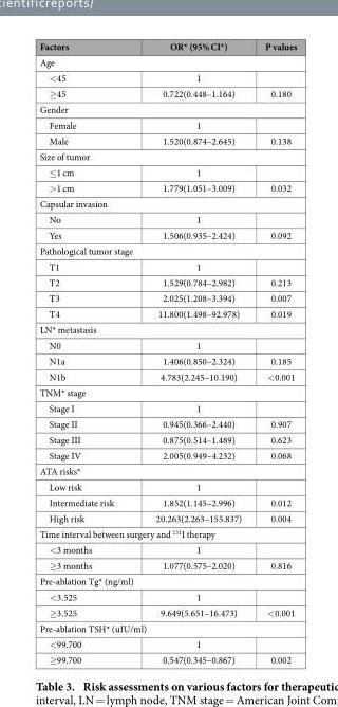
<table><thead><tr><td>Factors</td><td>OR* (95% CI*)</td><td>P values</td></tr></thead><tbody><tr><td colspan="3">Age</td></tr><tr><td>&lt; 45</td><td>1</td><td></td></tr><tr><td>≥ 45</td><td>0.722(0.448–1.164)</td><td>0.180</td></tr><tr><td colspan="3">Gender</td></tr><tr><td>Female</td><td>1</td><td></td></tr><tr><td>Male</td><td>1.520(0.874–2.645)</td><td>0.138</td></tr><tr><td colspan="3">Size of tumor</td></tr><tr><td>≤ 1 cm</td><td>1</td><td></td></tr><tr><td>&gt; 1 cm</td><td>1.779(1.051–3.009)</td><td>0.032</td></tr><tr><td colspan="3">Capsular invasion</td></tr><tr><td>No</td><td>1</td><td></td></tr><tr><td>Yes</td><td>1.506(0.935–2.424)</td><td>0.092</td></tr><tr><td colspan="3">Pathological tumor stage</td></tr><tr><td>T1</td><td>1</td><td></td></tr><tr><td>T2</td><td>1.529(0.784–2.982)</td><td>0.213</td></tr><tr><td>T3</td><td>2.025(1.208–3.394)</td><td>0.007</td></tr><tr><td>T4</td><td>11.800(1.498–92.978)</td><td>0.019</td></tr><tr><td colspan="3">LN* metastasis</td></tr><tr><td>N0</td><td>1</td><td></td></tr><tr><td>N1a</td><td>1.406(0.850–2.324)</td><td>0.185</td></tr><tr><td>N1b</td><td>4.783(2.245–10.190)</td><td>&lt; 0.001</td></tr><tr><td colspan="3">TNM* stage</td></tr><tr><td>Stage I</td><td>1</td><td></td></tr><tr><td>Stage II</td><td>0.945(0.366–2.440)</td><td>0.907</td></tr><tr><td>Stage III</td><td>0.875(0.514–1.489)</td><td>0.623</td></tr><tr><td>Stage IV</td><td>2.005(0.949–4.232)</td><td>0.068</td></tr><tr><td colspan="3">ATA risks*</td></tr><tr><td>Low risk</td><td>1</td><td></td></tr><tr><td>Intermediate risk</td><td>1.852(1.145–2.996)</td><td>0.012</td></tr><tr><td>High risk</td><td>20.263(2.263–155.837)</td><td>0.004</td></tr><tr><td colspan="3">Time interval between surgery and <sup>131</sup>I therapy</td></tr><tr><td>&lt; 3 months</td><td>1</td><td></td></tr><tr><td>≥ 3 months</td><td>1.077(0.575–2.020)</td><td>0.816</td></tr><tr><td colspan="3">Pre-ablation Tg* (ng/ml)</td></tr><tr><td>&lt; 3.525</td><td>1</td><td></td></tr><tr><td>≥ 3.525</td><td>9.649(5.651–16.473)</td><td>&lt; 0.001</td></tr><tr><td colspan="3">Pre-ablation TSH* (uIU/ml)</td></tr><tr><td>&lt; 99.700</td><td>1</td><td></td></tr><tr><td>≥ 99.700</td><td>0.547(0.345–0.867)</td><td>0.002</td></tr></tbody></table>